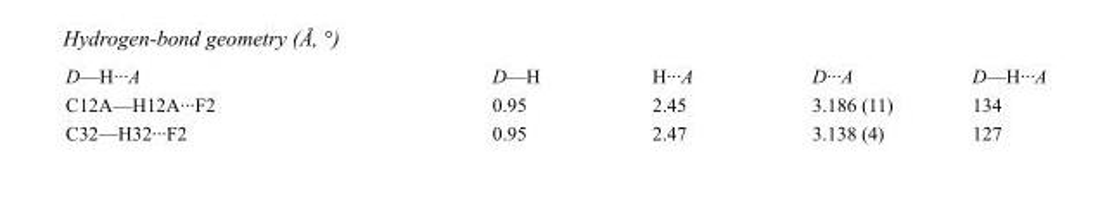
<table><tbody><tr><td>D—H···A</td><td>D—H</td><td>H···A</td><td>D···A</td><td>D—H···A</td></tr><tr><td>C12A—H12A···F2</td><td>0.95</td><td>2.45</td><td>3.186 (11)</td><td>134</td></tr><tr><td>C32—H32···F2</td><td>0.95</td><td>2.47</td><td>3.138 (4)</td><td>127</td></tr></tbody></table>